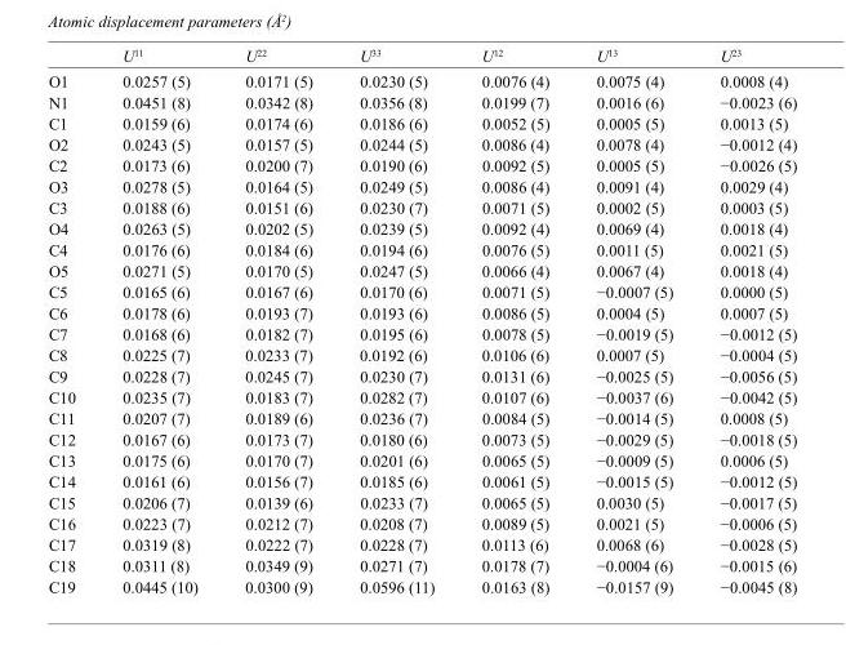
<table><thead><tr><td></td><td>U<sup>11</sup></td><td>U<sup>22</sup></td><td>U<sup>33</sup></td><td>U<sup>12</sup></td><td>U<sup>13</sup></td><td>U<sup>23</sup></td></tr></thead><tbody><tr><td>O1</td><td>0.0257 (5)</td><td>0.0171 (5)</td><td>0.0230 (5)</td><td>0.0076 (4)</td><td>0.0075 (4)</td><td>0.0008 (4)</td></tr><tr><td>N1</td><td>0.0451 (8)</td><td>0.0342 (8)</td><td>0.0356 (8)</td><td>0.0199 (7)</td><td>0.0016 (6)</td><td>−0.0023 (6)</td></tr><tr><td>C1</td><td>0.0159 (6)</td><td>0.0174 (6)</td><td>0.0186 (6)</td><td>0.0052 (5)</td><td>0.0005 (5)</td><td>0.0013 (5)</td></tr><tr><td>O2</td><td>0.0243 (5)</td><td>0.0157 (5)</td><td>0.0244 (5)</td><td>0.0086 (4)</td><td>0.0078 (4)</td><td>−0.0012 (4)</td></tr><tr><td>C2</td><td>0.0173 (6)</td><td>0.0200 (7)</td><td>0.0190 (6)</td><td>0.0092 (5)</td><td>0.0005 (5)</td><td>−0.0026 (5)</td></tr><tr><td>O3</td><td>0.0278 (5)</td><td>0.0164 (5)</td><td>0.0249 (5)</td><td>0.0086 (4)</td><td>0.0091 (4)</td><td>0.0029 (4)</td></tr><tr><td>C3</td><td>0.0188 (6)</td><td>0.0151 (6)</td><td>0.0230 (7)</td><td>0.0071 (5)</td><td>0.0002 (5)</td><td>0.0003 (5)</td></tr><tr><td>O4</td><td>0.0263 (5)</td><td>0.0202 (5)</td><td>0.0239 (5)</td><td>0.0092 (4)</td><td>0.0069 (4)</td><td>0.0018 (4)</td></tr><tr><td>C4</td><td>0.0176 (6)</td><td>0.0184 (6)</td><td>0.0194 (6)</td><td>0.0076 (5)</td><td>0.0011 (5)</td><td>0.0021 (5)</td></tr><tr><td>O5</td><td>0.0271 (5)</td><td>0.0170 (5)</td><td>0.0247 (5)</td><td>0.0066 (4)</td><td>0.0067 (4)</td><td>0.0018 (4)</td></tr><tr><td>C5</td><td>0.0165 (6)</td><td>0.0167 (6)</td><td>0.0170 (6)</td><td>0.0071 (5)</td><td>−0.0007 (5)</td><td>0.0000 (5)</td></tr><tr><td>C6</td><td>0.0178 (6)</td><td>0.0193 (7)</td><td>0.0193 (6)</td><td>0.0086 (5)</td><td>0.0004 (5)</td><td>0.0007 (5)</td></tr><tr><td>C7</td><td>0.0168 (6)</td><td>0.0182 (7)</td><td>0.0195 (6)</td><td>0.0078 (5)</td><td>−0.0019 (5)</td><td>−0.0012 (5)</td></tr><tr><td>C8</td><td>0.0225 (7)</td><td>0.0233 (7)</td><td>0.0192 (6)</td><td>0.0106 (6)</td><td>0.0007 (5)</td><td>−0.0004 (5)</td></tr><tr><td>C9</td><td>0.0228 (7)</td><td>0.0245 (7)</td><td>0.0230 (7)</td><td>0.0131 (6)</td><td>−0.0025 (5)</td><td>−0.0056 (5)</td></tr><tr><td>C10</td><td>0.0235 (7)</td><td>0.0183 (7)</td><td>0.0282 (7)</td><td>0.0107 (6)</td><td>−0.0037 (6)</td><td>−0.0042 (5)</td></tr><tr><td>C11</td><td>0.0207 (7)</td><td>0.0189 (6)</td><td>0.0236 (7)</td><td>0.0084 (5)</td><td>−0.0014 (5)</td><td>0.0008 (5)</td></tr><tr><td>C12</td><td>0.0167 (6)</td><td>0.0173 (7)</td><td>0.0180 (6)</td><td>0.0073 (5)</td><td>−0.0029 (5)</td><td>−0.0018 (5)</td></tr><tr><td>C13</td><td>0.0175 (6)</td><td>0.0170 (7)</td><td>0.0201 (6)</td><td>0.0065 (5)</td><td>−0.0009 (5)</td><td>0.0006 (5)</td></tr><tr><td>C14</td><td>0.0161 (6)</td><td>0.0156 (7)</td><td>0.0185 (6)</td><td>0.0061 (5)</td><td>−0.0015 (5)</td><td>−0.0012 (5)</td></tr><tr><td>C15</td><td>0.0206 (7)</td><td>0.0139 (6)</td><td>0.0233 (7)</td><td>0.0065 (5)</td><td>0.0030 (5)</td><td>−0.0017 (5)</td></tr><tr><td>C16</td><td>0.0223 (7)</td><td>0.0212 (7)</td><td>0.0208 (7)</td><td>0.0089 (5)</td><td>0.0021 (5)</td><td>−0.0006 (5)</td></tr><tr><td>C17</td><td>0.0319 (8)</td><td>0.0222 (7)</td><td>0.0228 (7)</td><td>0.0113 (6)</td><td>0.0068 (6)</td><td>−0.0028 (5)</td></tr><tr><td>C18</td><td>0.0311 (8)</td><td>0.0349 (9)</td><td>0.0271 (7)</td><td>0.0178 (7)</td><td>−0.0004 (6)</td><td>−0.0015 (6)</td></tr><tr><td>C19</td><td>0.0445 (10)</td><td>0.0300 (9)</td><td>0.0596 (11)</td><td>0.0163 (8)</td><td>−0.0157 (9)</td><td>−0.0045 (8)</td></tr></tbody></table>